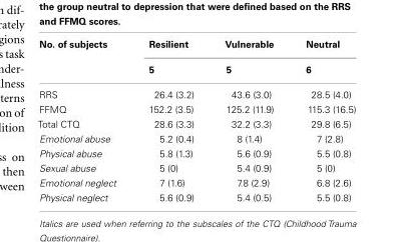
<table><thead><tr><td rowspan="2">No. of subjects</td><td rowspan="2">Resilient 5</td><td rowspan="2">Vulnerable 5</td><td rowspan="2">Neutral 6</td></tr><tr></tr></thead><tbody><tr><td>RRS</td><td>26.4 (3.2)</td><td>43.6 (3.0)</td><td>28.5 (4.0)</td></tr><tr><td>FFMQ</td><td>152.2 (3.5)</td><td>125.2 (11.9)</td><td>115.3 (16.5)</td></tr><tr><td>Total CTQ</td><td>28.6 (3.3)</td><td>32.2 (3.3)</td><td>29.8 (6.5)</td></tr><tr><td>Emotional abuse</td><td>5.2 (0.4)</td><td>8 (1.4)</td><td>7 (2.8)</td></tr><tr><td>Physical abuse</td><td>5.8 (1.3)</td><td>5.6 (0.9)</td><td>5.5 (0.8)</td></tr><tr><td>Sexual abuse</td><td>5 (0)</td><td>5.4 (0.9)</td><td>5 (0)</td></tr><tr><td>Emotional neglect</td><td>7 (1.6)</td><td>7.8 (2.9)</td><td>6.8 (2.6)</td></tr><tr><td>Physical neglect</td><td>5.6 (0.9)</td><td>5.4 (0.5)</td><td>5.5 (0.8)</td></tr></tbody></table>